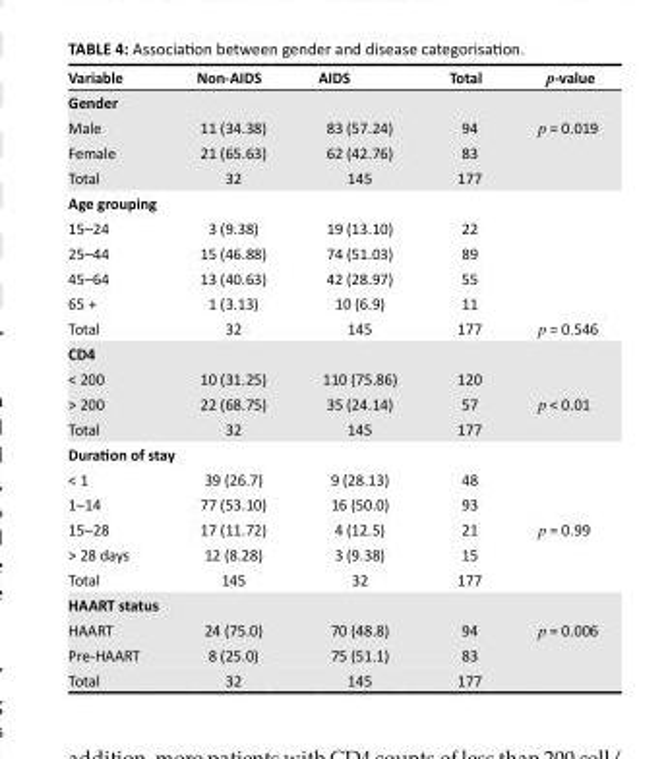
<table><thead><tr><td>Variable</td><td>Non-AIDS</td><td>AIDS</td><td>Total</td><td>p-value</td></tr></thead><tbody><tr><td colspan="5">Gender</td></tr><tr><td>Male</td><td>11 (34.38)</td><td>83 (57.24)</td><td>94</td><td>p = 0.019</td></tr><tr><td>Female</td><td>21 (65.63)</td><td>62 (42.76)</td><td>83</td><td></td></tr><tr><td>Total</td><td>32</td><td>145</td><td>177</td><td></td></tr><tr><td colspan="5">Age grouping</td></tr><tr><td>15–24</td><td>3 (9.38)</td><td>19 (13.10)</td><td>22</td><td></td></tr><tr><td>25–44</td><td>15 (46.88)</td><td>74 (51.03)</td><td>89</td><td></td></tr><tr><td>45–64</td><td>13 (40.63)</td><td>42 (28.97)</td><td>55</td><td></td></tr><tr><td>65 +</td><td>1 (3.13)</td><td>10 (6.9)</td><td>11</td><td></td></tr><tr><td>Total</td><td>32</td><td>145</td><td>177</td><td>p = 0.546</td></tr><tr><td colspan="5">CD4</td></tr><tr><td>&lt; 200</td><td>10 (31.25)</td><td>110 (75.86)</td><td>120</td><td></td></tr><tr><td>&gt; 200</td><td>22 (68.75)</td><td>35 (24.14)</td><td>57</td><td>p &lt; 0.01</td></tr><tr><td>Total</td><td>32</td><td>145</td><td>177</td><td></td></tr><tr><td colspan="5">Duration of stay</td></tr><tr><td>&lt; 1</td><td>39 (26.7)</td><td>9 (28.13)</td><td>48</td><td></td></tr><tr><td>1–14</td><td>77 (53.10)</td><td>16 (50.0)</td><td>93</td><td></td></tr><tr><td>15–28</td><td>17 (11.72)</td><td>4 (12.5)</td><td>21</td><td>p = 0.99</td></tr><tr><td>&gt; 28 days</td><td>12 (8.28)</td><td>3 (9.38)</td><td>15</td><td></td></tr><tr><td>Total</td><td>145</td><td>32</td><td>177</td><td></td></tr><tr><td colspan="5">HAART status</td></tr><tr><td>HAART</td><td>24 (75.0)</td><td>70 (48.8)</td><td>94</td><td>p = 0.006</td></tr><tr><td>Pre-HAART</td><td>8 (25.0)</td><td>75 (51.1)</td><td>83</td><td></td></tr><tr><td>Total</td><td>32</td><td>145</td><td>177</td><td></td></tr></tbody></table>